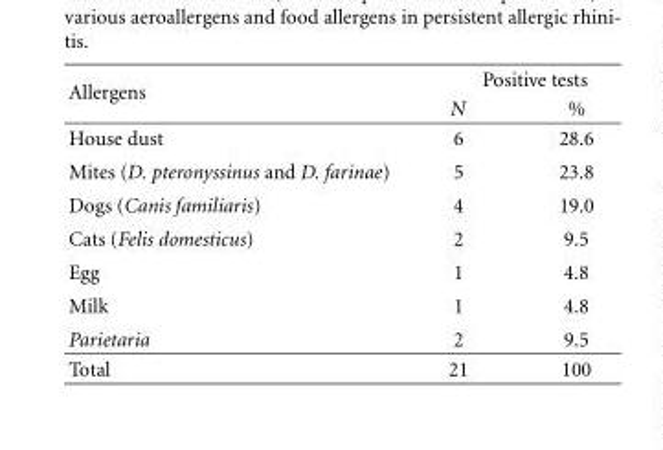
<table><thead><tr><td rowspan="2">Allergens</td><td colspan="2">Positive tests</td></tr><tr><td>N</td><td>%</td></tr></thead><tbody><tr><td>House dust</td><td>6</td><td>28.6</td></tr><tr><td>Mites (D. pteronyssinus and D. farinae)</td><td>5</td><td>23.8</td></tr><tr><td>Dogs (Canis familiaris)</td><td>4</td><td>19.0</td></tr><tr><td>Cats (Felis domesticus)</td><td>2</td><td>9.5</td></tr><tr><td>Egg</td><td>1</td><td>4.8</td></tr><tr><td>Milk</td><td>1</td><td>4.8</td></tr><tr><td>Parietaria</td><td>2</td><td>9.5</td></tr><tr><td>Total</td><td>21</td><td>100</td></tr></tbody></table>